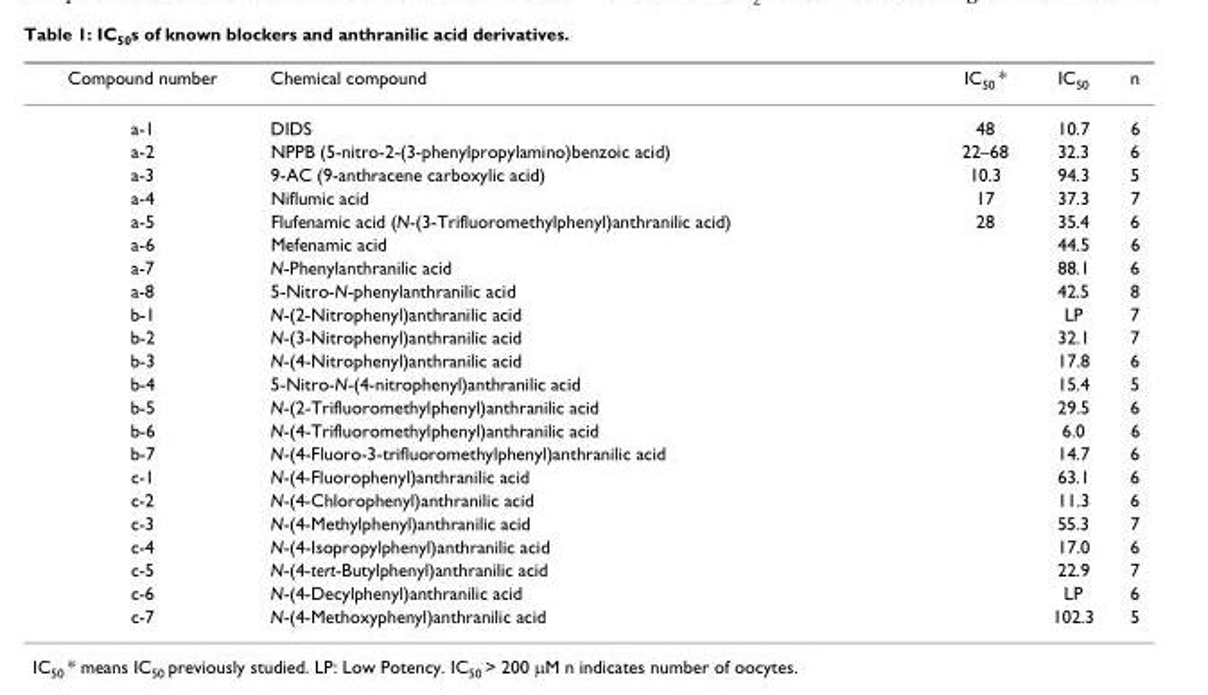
<table><thead><tr><td>Compound number</td><td>Chemical compound</td><td>IC<sub>50</sub> *</td><td>IC<sub>50</sub></td><td>n</td></tr></thead><tbody><tr><td>a-1</td><td>DIDS</td><td>48</td><td>10.7</td><td>6</td></tr><tr><td>a-2</td><td>NPPB (5-nitro-2-(3-phenylpropylamino)benzoic acid)</td><td>22–68</td><td>32.3</td><td>6</td></tr><tr><td>a-3</td><td>9-AC (9-anthracene carboxylic acid)</td><td>10.3</td><td>94.3</td><td>5</td></tr><tr><td>a-4</td><td>Niflumic acid</td><td>17</td><td>37.3</td><td>7</td></tr><tr><td>a-5</td><td>Flufenamic acid (N-(3-Trifluoromethylphenyl)anthranilic acid)</td><td>28</td><td>35.4</td><td>6</td></tr><tr><td>a-6</td><td>Mefenamic acid</td><td></td><td>44.5</td><td>6</td></tr><tr><td>a-7</td><td>N-Phenylanthranilic acid</td><td></td><td>88.1</td><td>6</td></tr><tr><td>a-8</td><td>5-Nitro-N-phenylanthranilic acid</td><td></td><td>42.5</td><td>8</td></tr><tr><td>b-1</td><td>N-(2-Nitrophenyl)anthranilic acid</td><td></td><td>LP</td><td>7</td></tr><tr><td>b-2</td><td>N-(3-Nitrophenyl)anthranilic acid</td><td></td><td>32.1</td><td>7</td></tr><tr><td>b-3</td><td>N-(4-Nitrophenyl)anthranilic acid</td><td></td><td>17.8</td><td>6</td></tr><tr><td>b-4</td><td>5-Nitro-N-(4-nitrophenyl)anthranilic acid</td><td></td><td>15.4</td><td>5</td></tr><tr><td>b-5</td><td>N-(2-Trifluoromethylphenyl)anthranilic acid</td><td></td><td>29.5</td><td>6</td></tr><tr><td>b-6</td><td>N-(4-Trifluoromethylphenyl)anthranilic acid</td><td></td><td>6.0</td><td>6</td></tr><tr><td>b-7</td><td>N-(4-Fluoro-3-trifluoromethylphenyl)anthranilic acid</td><td></td><td>14.7</td><td>6</td></tr><tr><td>c-1</td><td>N-(4-Fluorophenyl)anthranilic acid</td><td></td><td>63.1</td><td>6</td></tr><tr><td>c-2</td><td>N-(4-Chlorophenyl)anthranilic acid</td><td></td><td>11.3</td><td>6</td></tr><tr><td>c-3</td><td>N-(4-Methylphenyl)anthranilic acid</td><td></td><td>55.3</td><td>7</td></tr><tr><td>c-4</td><td>N-(4-Isopropylphenyl)anthranilic acid</td><td></td><td>17.0</td><td>6</td></tr><tr><td>c-5</td><td>N-(4-tert-Butylphenyl)anthranilic acid</td><td></td><td>22.9</td><td>7</td></tr><tr><td>c-6</td><td>N-(4-Decylphenyl)anthranilic acid</td><td></td><td>LP</td><td>6</td></tr><tr><td>c-7</td><td>N-(4-Methoxyphenyl)anthranilic acid</td><td></td><td>102.3</td><td>5</td></tr></tbody></table>